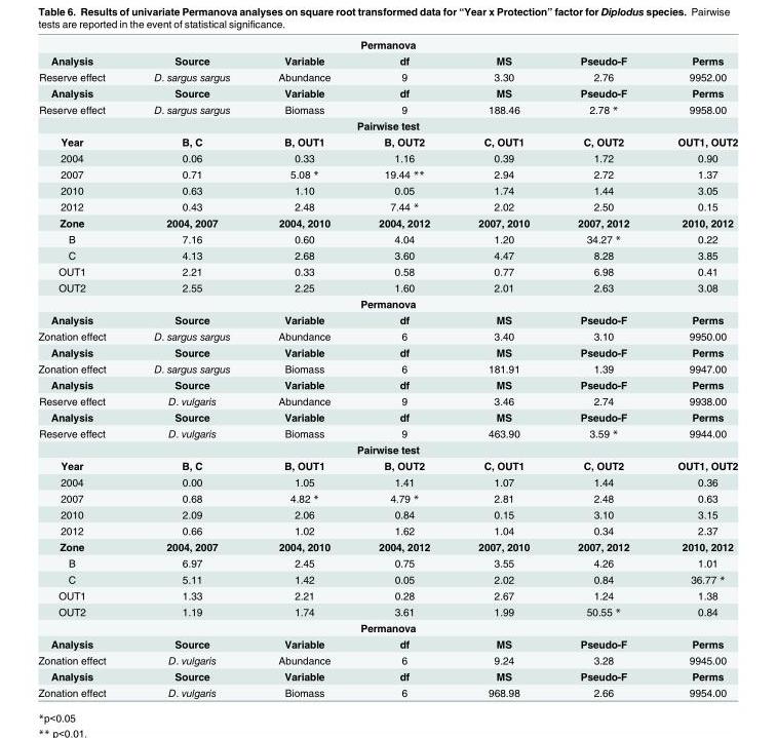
<table><tbody><tr><td colspan="7">Permanova</td></tr><tr><td>Analysis</td><td>Source</td><td>Variable</td><td>df</td><td>MS</td><td>Pseudo-F</td><td>Perms</td></tr><tr><td>Reserve effect</td><td>D. sargus sargus</td><td>Abundance</td><td>9</td><td>3.30</td><td>2.76</td><td>9952.00</td></tr><tr><td>Analysis</td><td>Source</td><td>Variable</td><td>df</td><td>MS</td><td>Pseudo-F</td><td>Perms</td></tr><tr><td>Reserve effect</td><td>D. sargus sargus</td><td>Biomass</td><td>9</td><td>188.46</td><td>2.78 *</td><td>9958.00</td></tr><tr><td colspan="7">Pairwise test</td></tr><tr><td>Year</td><td>B, C</td><td>B, OUT1</td><td>B, OUT2</td><td>C, OUT1</td><td>C, OUT2</td><td>OUT1, OUT2</td></tr><tr><td>2004</td><td>0.06</td><td>0.33</td><td>1.16</td><td>0.39</td><td>1.72</td><td>0.90</td></tr><tr><td>2007</td><td>0.71</td><td>5.08 *</td><td>19.44 **</td><td>2.94</td><td>2.72</td><td>1.37</td></tr><tr><td>2010</td><td>0.63</td><td>1.10</td><td>0.05</td><td>1.74</td><td>1.44</td><td>3.05</td></tr><tr><td>2012</td><td>0.43</td><td>2.48</td><td>7.44 *</td><td>2.02</td><td>2.50</td><td>0.15</td></tr><tr><td>Zone</td><td>2004, 2007</td><td>2004, 2010</td><td>2004, 2012</td><td>2007, 2010</td><td>2007, 2012</td><td>2010, 2012</td></tr><tr><td>B</td><td>7.16</td><td>0.60</td><td>4.04</td><td>1.20</td><td>34.27 *</td><td>0.22</td></tr><tr><td>C</td><td>4.13</td><td>2.68</td><td>3.60</td><td>4.47</td><td>8.28</td><td>3.85</td></tr><tr><td>OUT1</td><td>2.21</td><td>0.33</td><td>0.58</td><td>0.77</td><td>6.98</td><td>0.41</td></tr><tr><td>OUT2</td><td>2.55</td><td>2.25</td><td>1.60</td><td>2.01</td><td>2.63</td><td>3.08</td></tr><tr><td colspan="7">Permanova</td></tr><tr><td>Analysis</td><td>Source</td><td>Variable</td><td>df</td><td>MS</td><td>Pseudo-F</td><td>Perms</td></tr><tr><td>Zonation effect</td><td>D. sargus sargus</td><td>Abundance</td><td>6</td><td>3.40</td><td>3.10</td><td>9950.00</td></tr><tr><td>Analysis</td><td>Source</td><td>Variable</td><td>df</td><td>MS</td><td>Pseudo-F</td><td>Perms</td></tr><tr><td>Zonation effect</td><td>D. sargus sargus</td><td>Biomass</td><td>6</td><td>181.91</td><td>1.39</td><td>9947.00</td></tr><tr><td>Analysis</td><td>Source</td><td>Variable</td><td>df</td><td>MS</td><td>Pseudo-F</td><td>Perms</td></tr><tr><td>Reserve effect</td><td>D. vulgaris</td><td>Abundance</td><td>9</td><td>3.46</td><td>2.74</td><td>9938.00</td></tr><tr><td>Analysis</td><td>Source</td><td>Variable</td><td>df</td><td>MS</td><td>Pseudo-F</td><td>Perms</td></tr><tr><td>Reserve effect</td><td>D. vulgaris</td><td>Biomass</td><td>9</td><td>463.90</td><td>3.59 *</td><td>9944.00</td></tr><tr><td colspan="7">Pairwise test</td></tr><tr><td>Year</td><td>B, C</td><td>B, OUT1</td><td>B, OUT2</td><td>C, OUT1</td><td>C, OUT2</td><td>OUT1, OUT2</td></tr><tr><td>2004</td><td>0.00</td><td>1.05</td><td>1.41</td><td>1.07</td><td>1.44</td><td>0.36</td></tr><tr><td>2007</td><td>0.68</td><td>4.82 *</td><td>4.79 *</td><td>2.81</td><td>2.48</td><td>0.63</td></tr><tr><td>2010</td><td>2.09</td><td>2.06</td><td>0.84</td><td>0.15</td><td>3.10</td><td>3.15</td></tr><tr><td>2012</td><td>0.66</td><td>1.02</td><td>1.62</td><td>1.04</td><td>0.34</td><td>2.37</td></tr><tr><td>Zone</td><td>2004, 2007</td><td>2004, 2010</td><td>2004, 2012</td><td>2007, 2010</td><td>2007, 2012</td><td>2010, 2012</td></tr><tr><td>B</td><td>6.97</td><td>2.45</td><td>0.75</td><td>3.55</td><td>4.26</td><td>1.01</td></tr><tr><td>C</td><td>5.11</td><td>1.42</td><td>0.05</td><td>2.02</td><td>0.84</td><td>36.77 *</td></tr><tr><td>OUT1</td><td>1.33</td><td>2.21</td><td>0.28</td><td>2.67</td><td>1.24</td><td>1.38</td></tr><tr><td>OUT2</td><td>1.19</td><td>1.74</td><td>3.61</td><td>1.99</td><td>50.55 *</td><td>0.84</td></tr><tr><td colspan="7">Permanova</td></tr><tr><td>Analysis</td><td>Source</td><td>Variable</td><td>df</td><td>MS</td><td>Pseudo-F</td><td>Perms</td></tr><tr><td>Zonation effect</td><td>D. vulgaris</td><td>Abundance</td><td>6</td><td>9.24</td><td>3.28</td><td>9945.00</td></tr><tr><td>Analysis</td><td>Source</td><td>Variable</td><td>df</td><td>MS</td><td>Pseudo-F</td><td>Perms</td></tr><tr><td>Zonation effect</td><td>D. vulgaris</td><td>Biomass</td><td>6</td><td>968.98</td><td>2.66</td><td>9954.00</td></tr></tbody></table>